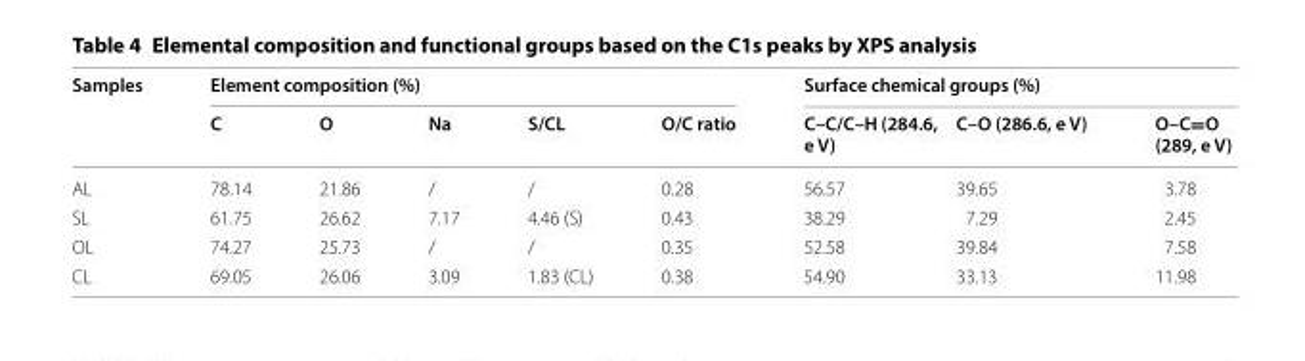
<table><thead><tr><td rowspan="2">Samples</td><td colspan="5">Element composition (%)</td><td colspan="3">Surface chemical groups (%)</td></tr><tr><td>C</td><td>O</td><td>Na</td><td>S/CL</td><td>O/C ratio</td><td>C–C/C–H (284.6, e V)</td><td>C–O (286.6, e V)</td><td>O–C=O (289, e V)</td></tr></thead><tbody><tr><td>AL</td><td>78.14</td><td>21.86</td><td>/</td><td>/</td><td>0.28</td><td>56.57</td><td>39.65</td><td>3.78</td></tr><tr><td>SL</td><td>61.75</td><td>26.62</td><td>7.17</td><td>4.46 (S)</td><td>0.43</td><td>38.29</td><td>7.29</td><td>2.45</td></tr><tr><td>OL</td><td>74.27</td><td>25.73</td><td>/</td><td>/</td><td>0.35</td><td>52.58</td><td>39.84</td><td>7.58</td></tr><tr><td>CL</td><td>69.05</td><td>26.06</td><td>3.09</td><td>1.83 (CL)</td><td>0.38</td><td>54.90</td><td>33.13</td><td>11.98</td></tr></tbody></table>